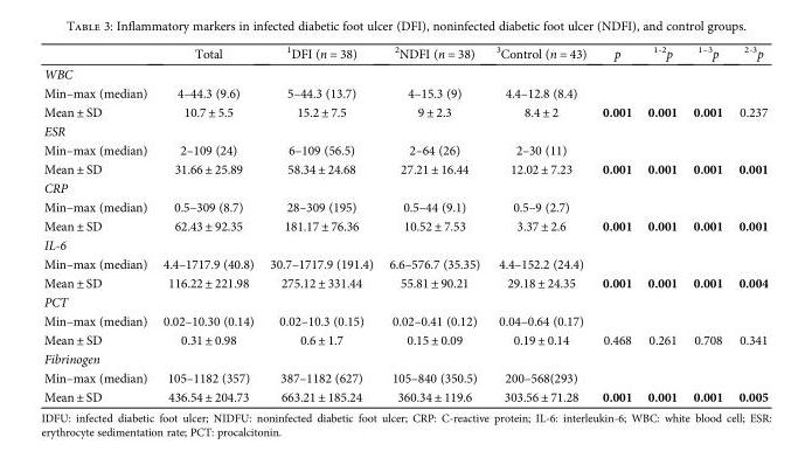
<table><thead><tr><td></td><td>Total</td><td><sup>1</sup>DFI (n = 38)</td><td><sup>2</sup>NDFI (n = 38)</td><td><sup>3</sup>Control (n = 43)</td><td>p</td><td><sup>1-2</sup>p</td><td><sup>1–3</sup>p</td><td><sup>2-3</sup>p</td></tr></thead><tbody><tr><td colspan="9">WBC</td></tr><tr><td>Min–max (median)</td><td>4–44.3 (9.6)</td><td>5–44.3 (13.7)</td><td>4–15.3 (9)</td><td>4.4–12.8 (8.4)</td><td></td><td></td><td></td><td></td></tr><tr><td>Mean ± SD</td><td>10.7 ± 5.5</td><td>15.2 ± 7.5</td><td>9 ± 2.3</td><td>8.4 ± 2</td><td>0.001</td><td>0.001</td><td>0.001</td><td>0.237</td></tr><tr><td colspan="9">ESR</td></tr><tr><td>Min–max (median)</td><td>2–109 (24)</td><td>6–109 (56.5)</td><td>2–64 (26)</td><td>2–30 (11)</td><td></td><td></td><td></td><td></td></tr><tr><td>Mean ± SD</td><td>31.66 ± 25.89</td><td>58.34 ± 24.68</td><td>27.21 ± 16.44</td><td>12.02 ± 7.23</td><td>0.001</td><td>0.001</td><td>0.001</td><td>0.001</td></tr><tr><td colspan="9">CRP</td></tr><tr><td>Min–max (median)</td><td>0.5–309 (8.7)</td><td>28–309 (195)</td><td>0.5–44 (9.1)</td><td>0.5–9 (2.7)</td><td></td><td></td><td></td><td></td></tr><tr><td>Mean ± SD</td><td>62.43 ± 92.35</td><td>181.17 ± 76.36</td><td>10.52 ± 7.53</td><td>3.37 ± 2.6</td><td>0.001</td><td>0.001</td><td>0.001</td><td>0.001</td></tr><tr><td colspan="9">IL-6</td></tr><tr><td>Min–max (median)</td><td>4.4–1717.9 (40.8)</td><td>30.7–1717.9 (191.4)</td><td>6.6–576.7 (35.35)</td><td>4.4–152.2 (24.4)</td><td></td><td></td><td></td><td></td></tr><tr><td>Mean ± SD</td><td>116.22 ± 221.98</td><td>275.12 ± 331.44</td><td>55.81 ± 90.21</td><td>29.18 ± 24.35</td><td>0.001</td><td>0.001</td><td>0.001</td><td>0.004</td></tr><tr><td colspan="9">PCT</td></tr><tr><td>Min–max (median)</td><td>0.02–10.30 (0.14)</td><td>0.02–10.3 (0.15)</td><td>0.02–0.41 (0.12)</td><td>0.04–0.64 (0.17)</td><td></td><td></td><td></td><td></td></tr><tr><td>Mean ± SD</td><td>0.31 ± 0.98</td><td>0.6 ± 1.7</td><td>0.15 ± 0.09</td><td>0.19 ± 0.14</td><td>0.468</td><td>0.261</td><td>0.708</td><td>0.341</td></tr><tr><td colspan="9">Fibrinogen</td></tr><tr><td>Min–max (median)</td><td>105–1182 (357)</td><td>387–1182 (627)</td><td>105–840 (350.5)</td><td>200–568(293)</td><td></td><td></td><td></td><td></td></tr><tr><td>Mean ± SD</td><td>436.54 ± 204.73</td><td>663.21 ± 185.24</td><td>360.34 ± 119.6</td><td>303.56 ± 71.28</td><td>0.001</td><td>0.001</td><td>0.001</td><td>0.005</td></tr></tbody></table>